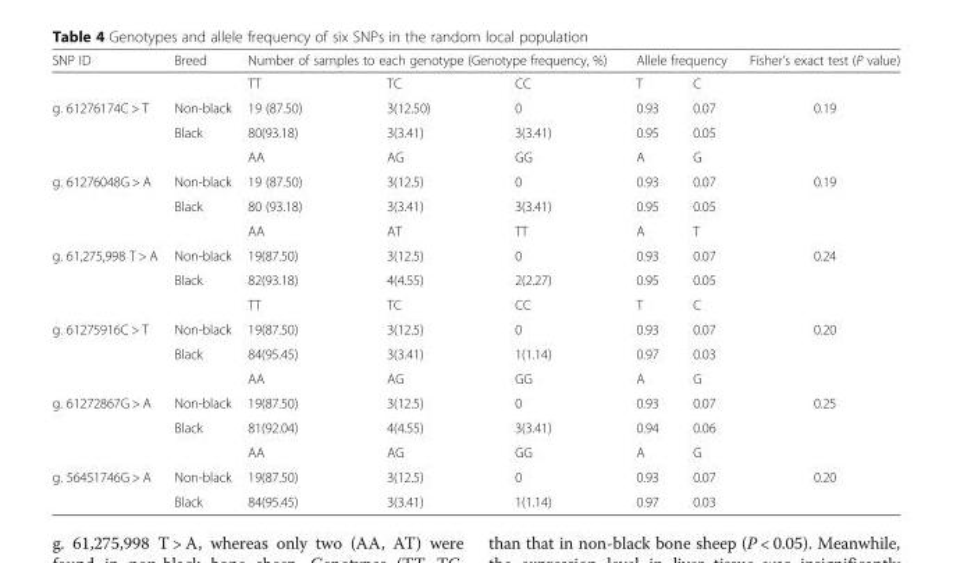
<table><thead><tr><td rowspan="2">SNP ID</td><td rowspan="2">Breed</td><td colspan="3">Number of samples to each genotype (Genotype frequency, %)</td><td colspan="2">Allele frequency</td><td rowspan="2">Fisher’s exact test (P value)</td></tr><tr><td>TT</td><td>TC</td><td>CC</td><td>T</td><td>C</td></tr></thead><tbody><tr><td rowspan="3">g. 61276174C &gt; T</td><td>Non-black</td><td>19 (87.50)</td><td>3(12.50)</td><td>0</td><td>0.93</td><td>0.07</td><td>0.19</td></tr><tr><td>Black</td><td>80(93.18)</td><td>3(3.41)</td><td>3(3.41)</td><td>0.95</td><td>0.05</td><td></td></tr><tr><td></td><td>AA</td><td>AG</td><td>GG</td><td>A</td><td>G</td><td></td></tr><tr><td rowspan="3">g. 61276048G &gt; A</td><td>Non-black</td><td>19 (87.50)</td><td>3(12.5)</td><td>0</td><td>0.93</td><td>0.07</td><td>0.19</td></tr><tr><td>Black</td><td>80 (93.18)</td><td>3(3.41)</td><td>3(3.41)</td><td>0.95</td><td>0.05</td><td></td></tr><tr><td></td><td>AA</td><td>AT</td><td>TT</td><td>A</td><td>T</td><td></td></tr><tr><td rowspan="3">g. 61,275,998 T &gt; A</td><td>Non-black</td><td>19(87.50)</td><td>3(12.5)</td><td>0</td><td>0.93</td><td>0.07</td><td>0.24</td></tr><tr><td>Black</td><td>82(93.18)</td><td>4(4.55)</td><td>2(2.27)</td><td>0.95</td><td>0.05</td><td></td></tr><tr><td></td><td>TT</td><td>TC</td><td>CC</td><td>T</td><td>C</td><td></td></tr><tr><td rowspan="3">g. 61275916C &gt; T</td><td>Non-black</td><td>19(87.50)</td><td>3(12.5)</td><td>0</td><td>0.93</td><td>0.07</td><td>0.20</td></tr><tr><td>Black</td><td>84(95.45)</td><td>3(3.41)</td><td>1(1.14)</td><td>0.97</td><td>0.03</td><td></td></tr><tr><td></td><td>AA</td><td>AG</td><td>GG</td><td>A</td><td>G</td><td></td></tr><tr><td rowspan="3">g. 61272867G &gt; A</td><td>Non-black</td><td>19(87.50)</td><td>3(12.5)</td><td>0</td><td>0.93</td><td>0.07</td><td>0.25</td></tr><tr><td>Black</td><td>81(92.04)</td><td>4(4.55)</td><td>3(3.41)</td><td>0.94</td><td>0.06</td><td></td></tr><tr><td></td><td>AA</td><td>AG</td><td>GG</td><td>A</td><td>G</td><td></td></tr><tr><td rowspan="2">g. 56451746G &gt; A</td><td>Non-black</td><td>19(87.50)</td><td>3(12.5)</td><td>0</td><td>0.93</td><td>0.07</td><td>0.20</td></tr><tr><td>Black</td><td>84(95.45)</td><td>3(3.41)</td><td>1(1.14)</td><td>0.97</td><td>0.03</td><td></td></tr></tbody></table>